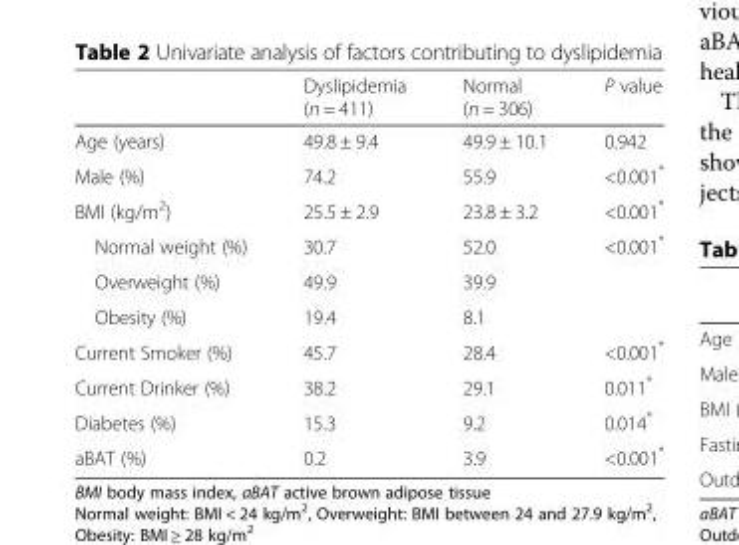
<table><thead><tr><td></td><td>Dyslipidemia (n = 411)</td><td>Normal (n = 306)</td><td>P value</td></tr></thead><tbody><tr><td>Age (years)</td><td>49.8 ± 9.4</td><td>49.9 ± 10.1</td><td>0.942</td></tr><tr><td>Male (%)</td><td>74.2</td><td>55.9</td><td>&lt;0.001*</td></tr><tr><td>BMI (kg/m<sup>2</sup>)</td><td>25.5 ± 2.9</td><td>23.8 ± 3.2</td><td>&lt;0.001*</td></tr><tr><td>Normal weight (%)</td><td>30.7</td><td>52.0</td><td>&lt;0.001*</td></tr><tr><td>Overweight (%)</td><td>49.9</td><td>39.9</td><td></td></tr><tr><td>Obesity (%)</td><td>19.4</td><td>8.1</td><td></td></tr><tr><td>Current Smoker (%)</td><td>45.7</td><td>28.4</td><td>&lt;0.001*</td></tr><tr><td>Current Drinker (%)</td><td>38.2</td><td>29.1</td><td>0.011*</td></tr><tr><td>Diabetes (%)</td><td>15.3</td><td>9.2</td><td>0.014*</td></tr><tr><td>aBAT (%)</td><td>0.2</td><td>3.9</td><td>&lt;0.001*</td></tr></tbody></table>